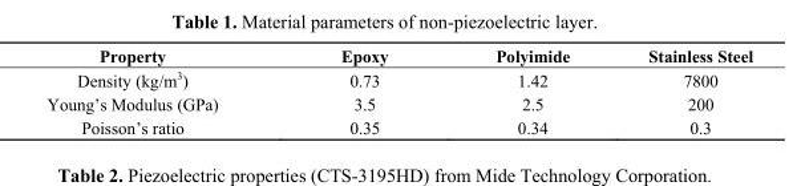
<table><thead><tr><td>Property</td><td>Epoxy</td><td>Polyimide</td><td>Stainless Steel</td></tr></thead><tbody><tr><td>Density (kg/m<sup>3</sup>)</td><td>0.73</td><td>1.42</td><td>7800</td></tr><tr><td>Young’s Modulus (GPa)</td><td>3.5</td><td>2.5</td><td>200</td></tr><tr><td>Poisson’s ratio</td><td>0.35</td><td>0.34</td><td>0.3</td></tr></tbody></table>